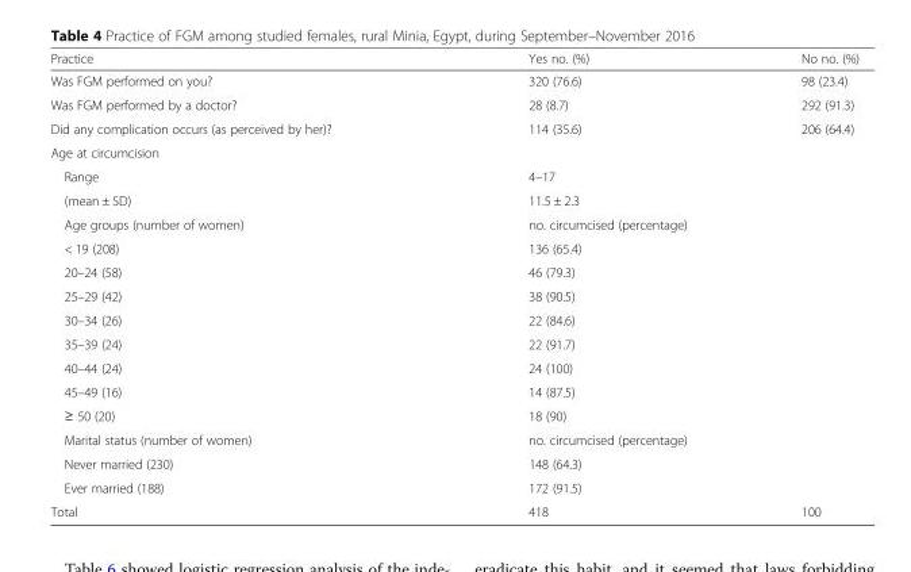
<table><thead><tr><td>Practice</td><td>Yes no. (%)</td><td>No no. (%)</td></tr></thead><tbody><tr><td>Was FGM performed on you?</td><td>320 (76.6)</td><td>98 (23.4)</td></tr><tr><td>Was FGM performed by a doctor?</td><td>28 (8.7)</td><td>292 (91.3)</td></tr><tr><td>Did any complication occurs (as perceived by her)?</td><td>114 (35.6)</td><td>206 (64.4)</td></tr><tr><td colspan="3">Age at circumcision</td></tr><tr><td>Range</td><td colspan="2">4–17</td></tr><tr><td>(mean ± SD)</td><td colspan="2">11.5 ± 2.3</td></tr><tr><td>Age groups (number of women)</td><td colspan="2">no. circumcised (percentage)</td></tr><tr><td>&lt; 19 (208)</td><td colspan="2">136 (65.4)</td></tr><tr><td>20–24 (58)</td><td colspan="2">46 (79.3)</td></tr><tr><td>25–29 (42)</td><td colspan="2">38 (90.5)</td></tr><tr><td>30–34 (26)</td><td colspan="2">22 (84.6)</td></tr><tr><td>35–39 (24)</td><td colspan="2">22 (91.7)</td></tr><tr><td>40–44 (24)</td><td colspan="2">24 (100)</td></tr><tr><td>45–49 (16)</td><td colspan="2">14 (87.5)</td></tr><tr><td>≥ 50 (20)</td><td colspan="2">18 (90)</td></tr><tr><td>Marital status (number of women)</td><td colspan="2">no. circumcised (percentage)</td></tr><tr><td>Never married (230)</td><td colspan="2">148 (64.3)</td></tr><tr><td>Ever married (188)</td><td colspan="2">172 (91.5)</td></tr><tr><td>Total</td><td>418</td><td>100</td></tr></tbody></table>